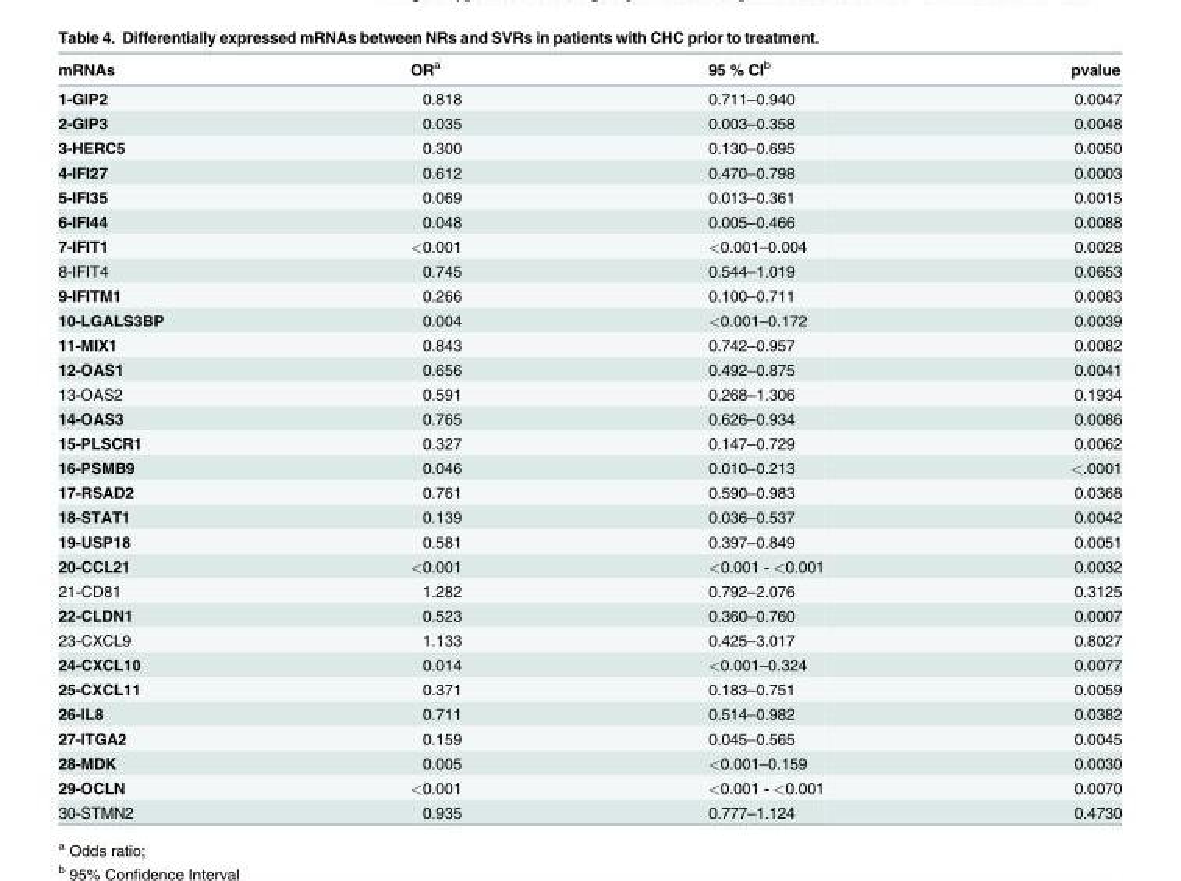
<table><thead><tr><td>mRNAs</td><td>OR<sup>a</sup></td><td>95 % CI<sup>b</sup></td><td>pvalue</td></tr></thead><tbody><tr><td>1-GIP2</td><td>0.818</td><td>0.711–0.940</td><td>0.0047</td></tr><tr><td>2-GIP3</td><td>0.035</td><td>0.003–0.358</td><td>0.0048</td></tr><tr><td>3-HERC5</td><td>0.300</td><td>0.130–0.695</td><td>0.0050</td></tr><tr><td>4-IFI27</td><td>0.612</td><td>0.470–0.798</td><td>0.0003</td></tr><tr><td>5-IFI35</td><td>0.069</td><td>0.013–0.361</td><td>0.0015</td></tr><tr><td>6-IFI44</td><td>0.048</td><td>0.005–0.466</td><td>0.0088</td></tr><tr><td>7-IFIT1</td><td>&lt;0.001</td><td>&lt;0.001–0.004</td><td>0.0028</td></tr><tr><td>8-IFIT4</td><td>0.745</td><td>0.544–1.019</td><td>0.0653</td></tr><tr><td>9-IFITM1</td><td>0.266</td><td>0.100–0.711</td><td>0.0083</td></tr><tr><td>10-LGALS3BP</td><td>0.004</td><td>&lt;0.001–0.172</td><td>0.0039</td></tr><tr><td>11-MIX1</td><td>0.843</td><td>0.742–0.957</td><td>0.0082</td></tr><tr><td>12-OAS1</td><td>0.656</td><td>0.492–0.875</td><td>0.0041</td></tr><tr><td>13-OAS2</td><td>0.591</td><td>0.268–1.306</td><td>0.1934</td></tr><tr><td>14-OAS3</td><td>0.765</td><td>0.626–0.934</td><td>0.0086</td></tr><tr><td>15-PLSCR1</td><td>0.327</td><td>0.147–0.729</td><td>0.0062</td></tr><tr><td>16-PSMB9</td><td>0.046</td><td>0.010–0.213</td><td>&lt;.0001</td></tr><tr><td>17-RSAD2</td><td>0.761</td><td>0.590–0.983</td><td>0.0368</td></tr><tr><td>18-STAT1</td><td>0.139</td><td>0.036–0.537</td><td>0.0042</td></tr><tr><td>19-USP18</td><td>0.581</td><td>0.397–0.849</td><td>0.0051</td></tr><tr><td>20-CCL21</td><td>&lt;0.001</td><td>&lt;0.001 - &lt;0.001</td><td>0.0032</td></tr><tr><td>21-CD81</td><td>1.282</td><td>0.792–2.076</td><td>0.3125</td></tr><tr><td>22-CLDN1</td><td>0.523</td><td>0.360–0.760</td><td>0.0007</td></tr><tr><td>23-CXCL9</td><td>1.133</td><td>0.425–3.017</td><td>0.8027</td></tr><tr><td>24-CXCL10</td><td>0.014</td><td>&lt;0.001–0.324</td><td>0.0077</td></tr><tr><td>25-CXCL11</td><td>0.371</td><td>0.183–0.751</td><td>0.0059</td></tr><tr><td>26-IL8</td><td>0.711</td><td>0.514–0.982</td><td>0.0382</td></tr><tr><td>27-ITGA2</td><td>0.159</td><td>0.045–0.565</td><td>0.0045</td></tr><tr><td>28-MDK</td><td>0.005</td><td>&lt;0.001–0.159</td><td>0.0030</td></tr><tr><td>29-OCLN</td><td>&lt;0.001</td><td>&lt;0.001 - &lt;0.001</td><td>0.0070</td></tr><tr><td>30-STMN2</td><td>0.935</td><td>0.777–1.124</td><td>0.4730</td></tr></tbody></table>